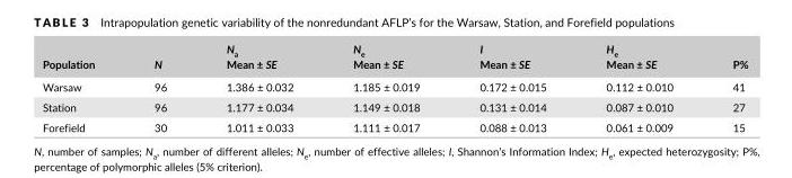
<table><thead><tr><td>Population</td><td>N</td><td>N<sub>a</sub> Mean ± SE</td><td>N<sub>e</sub> Mean ± SE</td><td>I Mean ± SE</td><td>H<sub>e</sub> Mean ± SE</td><td>P%</td></tr></thead><tbody><tr><td>Warsaw</td><td>96</td><td>1.386 ± 0.032</td><td>1.185 ± 0.019</td><td>0.172 ± 0.015</td><td>0.112 ± 0.010</td><td>41</td></tr><tr><td>Station</td><td>96</td><td>1.177 ± 0.034</td><td>1.149 ± 0.018</td><td>0.131 ± 0.014</td><td>0.087 ± 0.010</td><td>27</td></tr><tr><td>Forefield</td><td>30</td><td>1.011 ± 0.033</td><td>1.111 ± 0.017</td><td>0.088 ± 0.013</td><td>0.061 ± 0.009</td><td>15</td></tr></tbody></table>